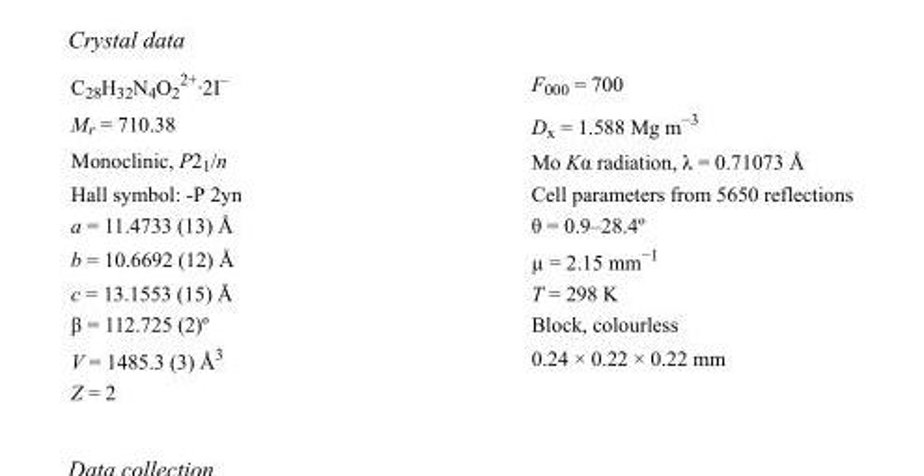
<table><tbody><tr><td>C<sub>28</sub>H<sub>32</sub>N<sub>4</sub>O<sub>2</sub> <sup>2+</sup>·2I<sup>–</sup></td><td>F000 = 700</td></tr><tr><td>M<sub>r</sub> = 710.38</td><td>D<sub>x</sub> = 1.588 Mg m<sup>−3</sup></td></tr><tr><td>Monoclinic, P2<sub>1</sub>/n</td><td>Mo Kα radiation, λ = 0.71073 Å</td></tr><tr><td>Hall symbol: -P 2yn</td><td>Cell parameters from 5650 reflections</td></tr><tr><td>a = 11.4733 (13) Å</td><td>θ = 0.9–28.4º</td></tr><tr><td>b = 10.6692 (12) Å</td><td>µ = 2.15 mm<sup>−1</sup></td></tr><tr><td>c = 13.1553 (15) Å</td><td>T = 298 K</td></tr><tr><td>β = 112.725 (2)º</td><td>Block, colourless</td></tr><tr><td>V = 1485.3 (3) Å<sup>3</sup></td><td>0.24 × 0.22 × 0.22 mm</td></tr><tr><td>Z = 2</td><td></td></tr></tbody></table>